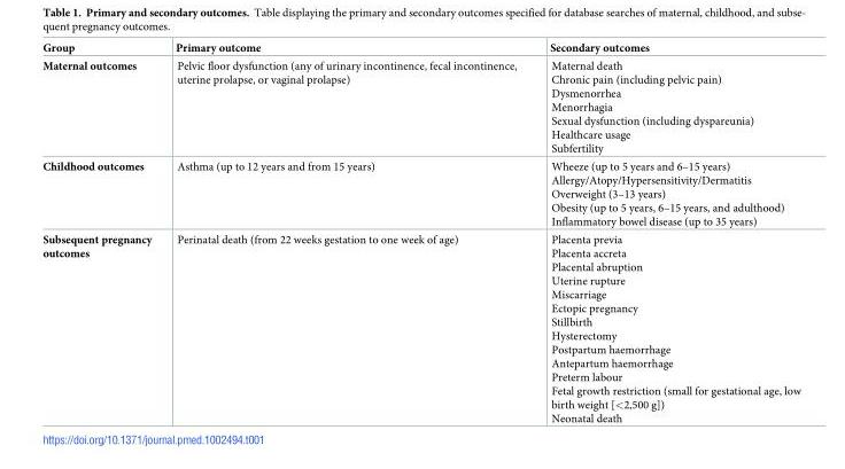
<table><thead><tr><td>Group</td><td>Primary outcome</td><td>Secondary outcomes</td></tr></thead><tbody><tr><td>Maternal outcomes</td><td>Pelvic floor dysfunction (any of urinary incontinence, fecal incontinence, uterine prolapse, or vaginal prolapse)</td><td>Maternal death Chronic pain (including pelvic pain) Dysmenorrhea Menorrhagia Sexual dysfunction (including dyspareunia) Healthcare usage Subfertility</td></tr><tr><td>Childhood outcomes</td><td>Asthma (up to 12 years and from 15 years)</td><td>Wheeze (up to 5 years and 6–15 years) Allergy/Atopy/Hypersensitivity/Dermatitis Overweight (3–13 years) Obesity (up to 5 years, 6–15 years, and adulthood) Inflammatory bowel disease (up to 35 years)</td></tr><tr><td>Subsequent pregnancy outcomes</td><td>Perinatal death (from 22 weeks gestation to one week of age)</td><td>Placenta previa Placenta accreta Placental abruption Uterine rupture Miscarriage Ectopic pregnancy Stillbirth Hysterectomy Postpartum haemorrhage Antepartum haemorrhage Preterm labour Fetal growth restriction (small for gestational age, low birth weight [&lt;2,500 g]) Neonatal death</td></tr></tbody></table>